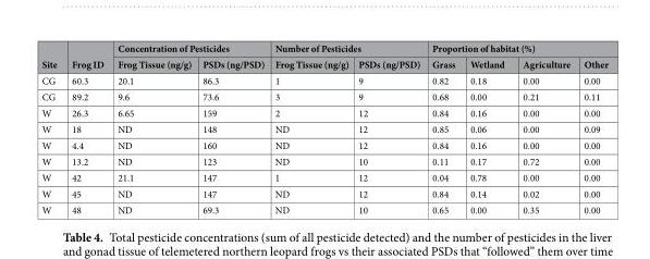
<table><thead><tr><td rowspan="2">Site</td><td rowspan="2">Frog ID</td><td colspan="2">Concentration of Pesticides</td><td colspan="2">Number of Pesticides</td><td colspan="4">Proportion of habitat (%)</td></tr><tr><td>Frog Tissue (ng/g)</td><td>PSDs (ng/PSD)</td><td>Frog Tissue (ng/g)</td><td>PSDs (ng/PSD)</td><td>Grass</td><td>Wetland</td><td>Agriculture</td><td>Other</td></tr></thead><tbody><tr><td>CG</td><td>60.3</td><td>20.1</td><td>86.3</td><td>1</td><td>9</td><td>0.82</td><td>0.18</td><td>0.00</td><td>0.00</td></tr><tr><td>CG</td><td>89.2</td><td>9.6</td><td>73.6</td><td>3</td><td>9</td><td>0.68</td><td>0.00</td><td>0.21</td><td>0.11</td></tr><tr><td>W</td><td>26.3</td><td>6.65</td><td>159</td><td>2</td><td>12</td><td>0.84</td><td>0.16</td><td>0.00</td><td>0.00</td></tr><tr><td>W</td><td>18</td><td>ND</td><td>148</td><td>ND</td><td>12</td><td>0.85</td><td>0.06</td><td>0.00</td><td>0.09</td></tr><tr><td>W</td><td>4.4</td><td>ND</td><td>160</td><td>ND</td><td>12</td><td>0.84</td><td>0.16</td><td>0.00</td><td>0.00</td></tr><tr><td>W</td><td>13.2</td><td>ND</td><td>123</td><td>ND</td><td>10</td><td>0.11</td><td>0.17</td><td>0.72</td><td>0.00</td></tr><tr><td>W</td><td>42</td><td>21.1</td><td>147</td><td>1</td><td>12</td><td>0.04</td><td>0.78</td><td>0.00</td><td>0.00</td></tr><tr><td>W</td><td>45</td><td>ND</td><td>147</td><td>ND</td><td>12</td><td>0.84</td><td>0.14</td><td>0.02</td><td>0.00</td></tr><tr><td>W</td><td>48</td><td>ND</td><td>69.3</td><td>ND</td><td>10</td><td>0.65</td><td>0.00</td><td>0.35</td><td>0.00</td></tr></tbody></table>